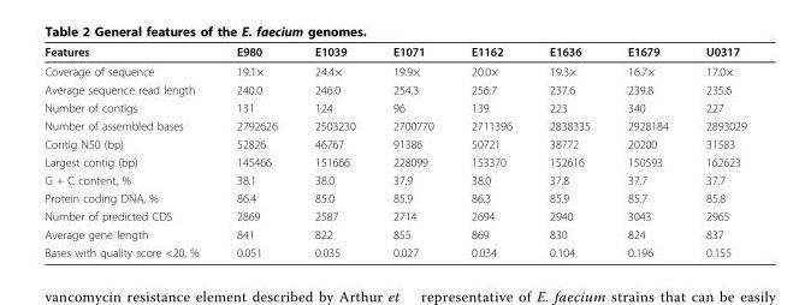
<table><thead><tr><td>Features</td><td>E980</td><td>E1039</td><td>E1071</td><td>E1162</td><td>E1636</td><td>E1679</td><td>U0317</td></tr></thead><tbody><tr><td>Coverage of sequence</td><td>19.1×</td><td>24.4×</td><td>19.9×</td><td>20.0×</td><td>19.3×</td><td>16.7×</td><td>17.0×</td></tr><tr><td>Average sequence read length</td><td>240.0</td><td>246.0</td><td>254.3</td><td>256.7</td><td>237.6</td><td>239.8</td><td>235.6</td></tr><tr><td>Number of contigs</td><td>131</td><td>124</td><td>96</td><td>139</td><td>223</td><td>340</td><td>227</td></tr><tr><td>Number of assembled bases</td><td>2792626</td><td>2503230</td><td>2700770</td><td>2711396</td><td>2838335</td><td>2928184</td><td>2893029</td></tr><tr><td>Contig N50 (bp)</td><td>52826</td><td>46767</td><td>91386</td><td>50721</td><td>38772</td><td>20200</td><td>31583</td></tr><tr><td>Largest contig (bp)</td><td>145466</td><td>151666</td><td>228099</td><td>153370</td><td>152616</td><td>150593</td><td>162623</td></tr><tr><td>G + C content, %</td><td>38.1</td><td>38.0</td><td>37.9</td><td>38.0</td><td>37.8</td><td>37.7</td><td>37.7</td></tr><tr><td>Protein coding DNA, %</td><td>86.4</td><td>85.0</td><td>85.9</td><td>86.3</td><td>85.9</td><td>85.7</td><td>85.8</td></tr><tr><td>Number of predicted CDS</td><td>2869</td><td>2587</td><td>2714</td><td>2694</td><td>2940</td><td>3043</td><td>2965</td></tr><tr><td>Average gene length</td><td>841</td><td>822</td><td>855</td><td>869</td><td>830</td><td>824</td><td>837</td></tr><tr><td>Bases with quality score &lt;20, %</td><td>0.051</td><td>0.035</td><td>0.027</td><td>0.034</td><td>0.104</td><td>0.196</td><td>0.155</td></tr></tbody></table>